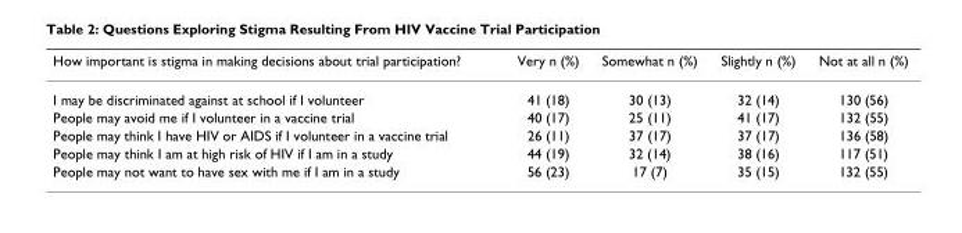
<table><thead><tr><td>How important is stigma in making decisions about trial participation?</td><td>Very n (%)</td><td>Somewhat n (%)</td><td>Slightly n (%)</td><td>Not at all n (%)</td></tr></thead><tbody><tr><td>I may be discriminated against at school if I volunteer</td><td>41 (18)</td><td>30 (13)</td><td>32 (14)</td><td>130 (56)</td></tr><tr><td>People may avoid me if I volunteer in a vaccine trial</td><td>40 (17)</td><td>25 (11)</td><td>41 (17)</td><td>132 (55)</td></tr><tr><td>People may think I have HIV or AIDS if I volunteer in a vaccine trial</td><td>26 (11)</td><td>37 (17)</td><td>37 (17)</td><td>136 (58)</td></tr><tr><td>People may think I am at high risk of HIV if I am in a study</td><td>44 (19)</td><td>32 (14)</td><td>38 (16)</td><td>117 (51)</td></tr><tr><td>People may not want to have sex with me if I am in a study</td><td>56 (23)</td><td>17 (7)</td><td>35 (15)</td><td>132 (55)</td></tr></tbody></table>